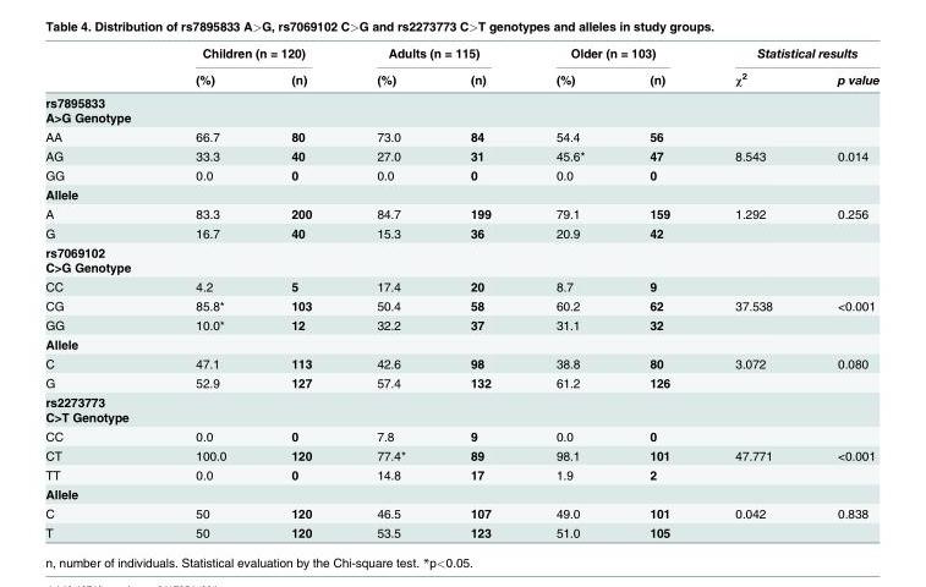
<table><thead><tr><td rowspan="2"></td><td colspan="2">Children (n = 120)</td><td colspan="2">Adults (n = 115)</td><td colspan="2">Older (n = 103)</td><td colspan="2">Statistical results</td></tr><tr><td>(%)</td><td>(n)</td><td>(%)</td><td>(n)</td><td>(%)</td><td>(n)</td><td>χ<sup>2</sup></td><td>p value</td></tr></thead><tbody><tr><td colspan="9">rs7895833 A&gt;G Genotype</td></tr><tr><td>AA</td><td>66.7</td><td>80</td><td>73.0</td><td>84</td><td>54.4</td><td>56</td><td></td><td></td></tr><tr><td>AG</td><td>33.3</td><td>40</td><td>27.0</td><td>31</td><td>45.6*</td><td>47</td><td>8.543</td><td>0.014</td></tr><tr><td>GG</td><td>0.0</td><td>0</td><td>0.0</td><td>0</td><td>0.0</td><td>0</td><td></td><td></td></tr><tr><td colspan="9">Allele</td></tr><tr><td>A</td><td>83.3</td><td>200</td><td>84.7</td><td>199</td><td>79.1</td><td>159</td><td>1.292</td><td>0.256</td></tr><tr><td>G</td><td>16.7</td><td>40</td><td>15.3</td><td>36</td><td>20.9</td><td>42</td><td></td><td></td></tr><tr><td colspan="9">rs7069102 C&gt;G Genotype</td></tr><tr><td>CC</td><td>4.2</td><td>5</td><td>17.4</td><td>20</td><td>8.7</td><td>9</td><td></td><td></td></tr><tr><td>CG</td><td>85.8*</td><td>103</td><td>50.4</td><td>58</td><td>60.2</td><td>62</td><td>37.538</td><td>&lt;0.001</td></tr><tr><td>GG</td><td>10.0*</td><td>12</td><td>32.2</td><td>37</td><td>31.1</td><td>32</td><td></td><td></td></tr><tr><td colspan="9">Allele</td></tr><tr><td>C</td><td>47.1</td><td>113</td><td>42.6</td><td>98</td><td>38.8</td><td>80</td><td>3.072</td><td>0.080</td></tr><tr><td>G</td><td>52.9</td><td>127</td><td>57.4</td><td>132</td><td>61.2</td><td>126</td><td></td><td></td></tr><tr><td colspan="9">rs2273773 C&gt;T Genotype</td></tr><tr><td>CC</td><td>0.0</td><td>0</td><td>7.8</td><td>9</td><td>0.0</td><td>0</td><td></td><td></td></tr><tr><td>CT</td><td>100.0</td><td>120</td><td>77.4*</td><td>89</td><td>98.1</td><td>101</td><td>47.771</td><td>&lt;0.001</td></tr><tr><td>TT</td><td>0.0</td><td>0</td><td>14.8</td><td>17</td><td>1.9</td><td>2</td><td></td><td></td></tr><tr><td colspan="9">Allele</td></tr><tr><td>C</td><td>50</td><td>120</td><td>46.5</td><td>107</td><td>49.0</td><td>101</td><td>0.042</td><td>0.838</td></tr><tr><td>T</td><td>50</td><td>120</td><td>53.5</td><td>123</td><td>51.0</td><td>105</td><td></td><td></td></tr></tbody></table>